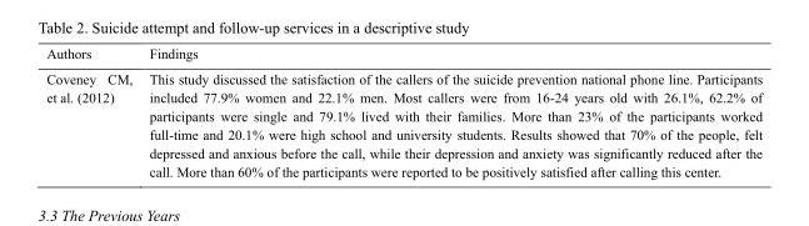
<table><thead><tr><td>Authors</td><td>Findings</td></tr></thead><tbody><tr><td>Coveney CM, et al. (2012)</td><td>This study discussed the satisfaction of the callers of the suicide prevention national phone line. Participants included 77.9% women and 22.1% men. Most callers were from 16-24 years old with 26.1%, 62.2% of participants were single and 79.1% lived with their families. More than 23% of the participants worked full-time and 20.1% were high school and university students. Results showed that 70% of the people, felt depressed and anxious before the call, while their depression and anxiety was significantly reduced after the call. More than 60% of the participants were reported to be positively satisfied after calling this center.</td></tr></tbody></table>